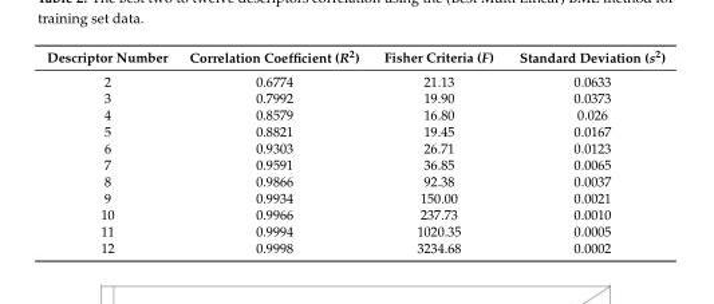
<table><thead><tr><td>Descriptor Number</td><td>Correlation Coefficient (R<sup>2</sup>)</td><td>Fisher Criteria (F)</td><td>Standard Deviation (s<sup>2</sup>)</td></tr></thead><tbody><tr><td>2</td><td>0.6774</td><td>21.13</td><td>0.0633</td></tr><tr><td>3</td><td>0.7992</td><td>19.90</td><td>0.0373</td></tr><tr><td>4</td><td>0.8579</td><td>16.80</td><td>0.026</td></tr><tr><td>5</td><td>0.8821</td><td>19.45</td><td>0.0167</td></tr><tr><td>6</td><td>0.9303</td><td>26.71</td><td>0.0123</td></tr><tr><td>7</td><td>0.9591</td><td>36.85</td><td>0.0065</td></tr><tr><td>8</td><td>0.9866</td><td>92.38</td><td>0.0037</td></tr><tr><td>9</td><td>0.9934</td><td>150.00</td><td>0.0021</td></tr><tr><td>10</td><td>0.9966</td><td>237.73</td><td>0.0010</td></tr><tr><td>11</td><td>0.9994</td><td>1020.35</td><td>0.0005</td></tr><tr><td>12</td><td>0.9998</td><td>3234.68</td><td>0.0002</td></tr></tbody></table>